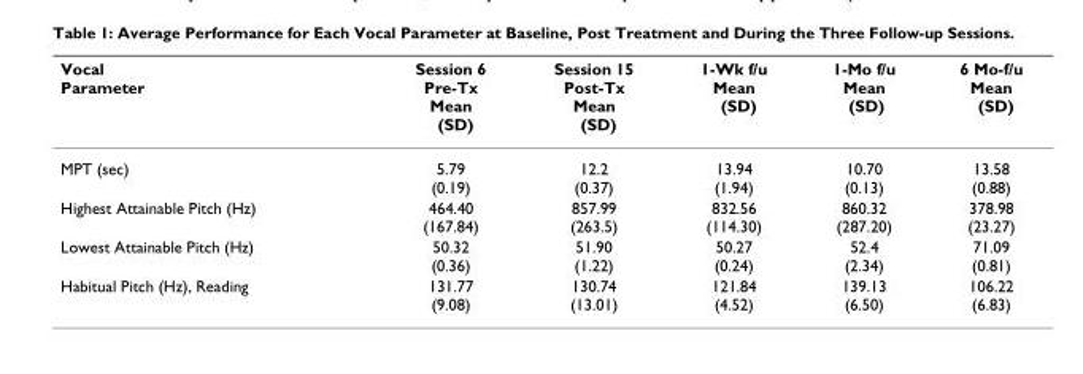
<table><thead><tr><td>Vocal Parameter</td><td>Session 6 Pre-Tx Mean (SD)</td><td>Session 15 Post-Tx Mean (SD)</td><td>1-Wk f/u Mean (SD)</td><td>1-Mo f/u Mean (SD)</td><td>6 Mo-f/u Mean (SD)</td></tr></thead><tbody><tr><td>MPT (sec)</td><td>5.79 (0.19)</td><td>12.2 (0.37)</td><td>13.94 (1.94)</td><td>10.70 (0.13)</td><td>13.58 (0.88)</td></tr><tr><td>Highest Attainable Pitch (Hz)</td><td>464.40 (167.84)</td><td>857.99 (263.5)</td><td>832.56 (114.30)</td><td>860.32 (287.20)</td><td>378.98 (23.27)</td></tr><tr><td>Lowest Attainable Pitch (Hz)</td><td>50.32 (0.36)</td><td>51.90 (1.22)</td><td>50.27 (0.24)</td><td>52.4 (2.34)</td><td>71.09 (0.81)</td></tr><tr><td>Habitual Pitch (Hz), Reading</td><td>131.77 (9.08)</td><td>130.74 (13.01)</td><td>121.84 (4.52)</td><td>139.13 (6.50)</td><td>106.22 (6.83)</td></tr></tbody></table>